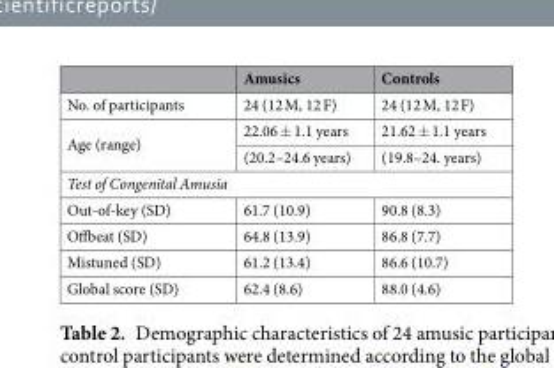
<table><thead><tr><td></td><td>Amusics</td><td>Controls</td></tr></thead><tbody><tr><td>No. of participants</td><td>24 (12 M, 12 F)</td><td>24 (12 M, 12 F)</td></tr><tr><td rowspan="2">Age (range)</td><td>22.06 ± 1.1 years</td><td>21.62 ± 1.1 years</td></tr><tr><td>(20.2–24.6 years)</td><td>(19.8–24. years)</td></tr><tr><td colspan="3">Test of Congenital Amusia</td></tr><tr><td>Out-of-key (SD)</td><td>61.7 (10.9)</td><td>90.8 (8.3)</td></tr><tr><td>Offbeat (SD)</td><td>64.8 (13.9)</td><td>86.8 (7.7)</td></tr><tr><td>Mistuned (SD)</td><td>61.2 (13.4)</td><td>86.6 (10.7)</td></tr><tr><td>Global score (SD)</td><td>62.4 (8.6)</td><td>88.0 (4.6)</td></tr></tbody></table>